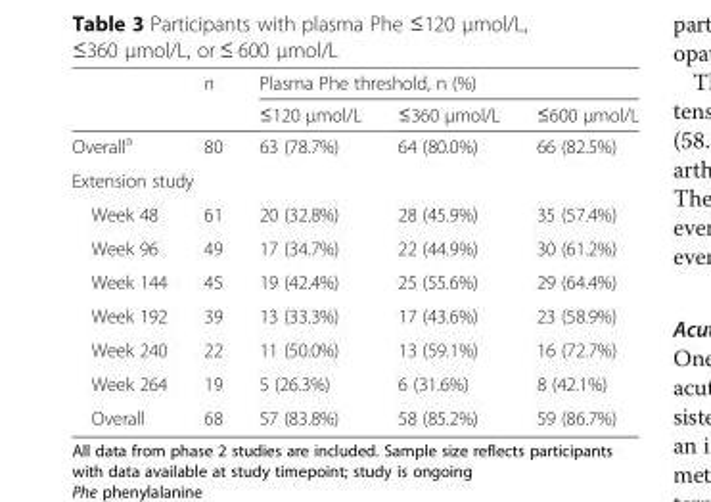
<table><thead><tr><td rowspan="2"></td><td rowspan="2">n</td><td colspan="3">Plasma Phe threshold, n (%)</td></tr><tr><td>≤120 μmol/L</td><td>≤360 μmol/L</td><td>≤600 μmol/L</td></tr></thead><tbody><tr><td>Overall<sup>a</sup></td><td>80</td><td>63 (78.7%)</td><td>64 (80.0%)</td><td>66 (82.5%)</td></tr><tr><td colspan="5">Extension study</td></tr><tr><td>Week 48</td><td>61</td><td>20 (32.8%)</td><td>28 (45.9%)</td><td>35 (57.4%)</td></tr><tr><td>Week 96</td><td>49</td><td>17 (34.7%)</td><td>22 (44.9%)</td><td>30 (61.2%)</td></tr><tr><td>Week 144</td><td>45</td><td>19 (42.4%)</td><td>25 (55.6%)</td><td>29 (64.4%)</td></tr><tr><td>Week 192</td><td>39</td><td>13 (33.3%)</td><td>17 (43.6%)</td><td>23 (58.9%)</td></tr><tr><td>Week 240</td><td>22</td><td>11 (50.0%)</td><td>13 (59.1%)</td><td>16 (72.7%)</td></tr><tr><td>Week 264</td><td>19</td><td>5 (26.3%)</td><td>6 (31.6%)</td><td>8 (42.1%)</td></tr><tr><td>Overall</td><td>68</td><td>57 (83.8%)</td><td>58 (85.2%)</td><td>59 (86.7%)</td></tr></tbody></table>